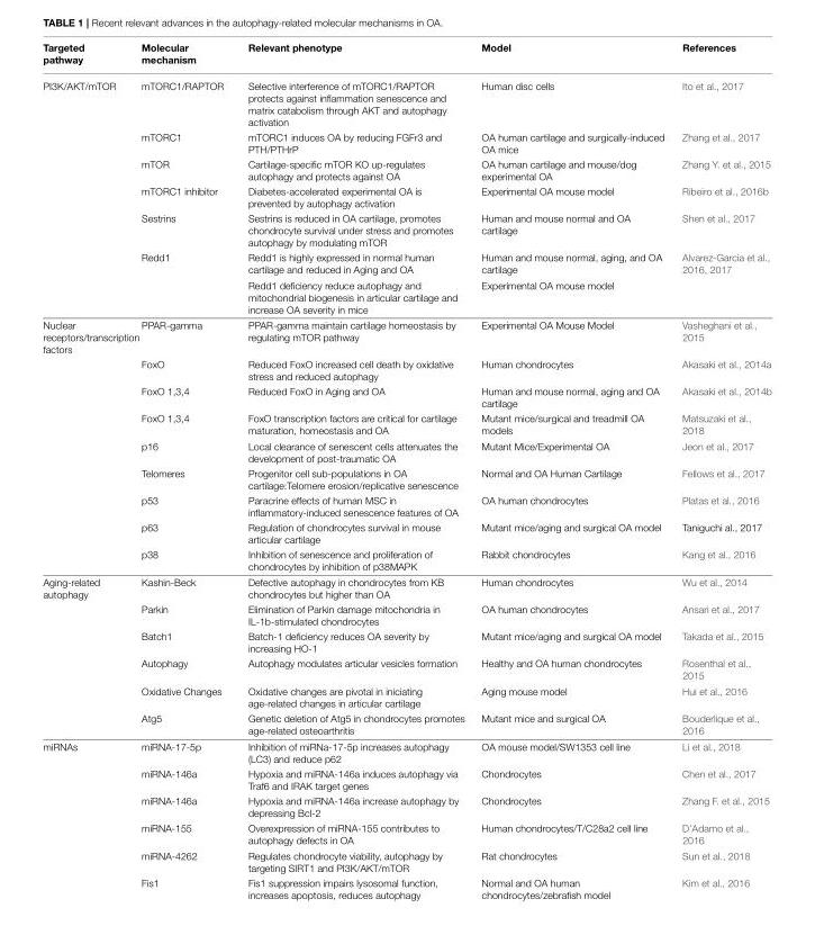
<table><thead><tr><td>Targeted pathway</td><td>Molecular mechanism</td><td>Relevant phenotype</td><td>Model</td><td>References</td></tr></thead><tbody><tr><td rowspan="7">PI3K/AKT/mTOR</td><td>mTORC1/RAPTOR</td><td>Selective interference of mTORC1/RAPTOR protects against inflammation senescence and matrix catabolism through AKT and autophagy activation</td><td>Human disc cells</td><td>Ito et al., 2017</td></tr><tr><td>mTORC1</td><td>mTORC1 induces OA by reducing FGFr3 and PTH/PTHrP</td><td>OA human cartilage and surgically-induced OA mice</td><td>Zhang et al., 2017</td></tr><tr><td>mTOR</td><td>Cartilage-specific mTOR KO up-regulates autophagy and protects against OA</td><td>OA human cartilage and mouse/dog experimental OA</td><td>Zhang Y. et al., 2015</td></tr><tr><td>mTORC1 inhibitor</td><td>Diabetes-accelerated experimental OA is prevented by autophagy activation</td><td>Experimental OA mouse model</td><td>Ribeiro et al., 2016b</td></tr><tr><td>Sestrins</td><td>Sestrins is reduced in OA cartilage, promotes chondrocyte survival under stress and promotes autophagy by modulating mTOR</td><td>Human and mouse normal and OA cartilage</td><td>Shen et al., 2017</td></tr><tr><td>Redd1</td><td>Redd1 is highly expressed in normal human cartilage and reduced in Aging and OA</td><td>Human and mouse normal, aging, and OA cartilage</td><td>Alvarez-Garcia et al., 2016, 2017</td></tr><tr><td></td><td>Redd1 deficiency reduce autophagy and mitochondrial biogenesis in articular cartilage and increase OA severity in mice</td><td>Experimental OA mouse model</td><td></td></tr><tr><td rowspan="9">Nuclear receptors/transcription factors</td><td>PPAR-gamma</td><td>PPAR-gamma maintain cartilage homeostasis by regulating mTOR pathway</td><td>Experimental OA Mouse Model</td><td>Vasheghani et al., 2015</td></tr><tr><td>FoxO</td><td>Reduced FoxO increased cell death by oxidative stress and reduced autophagy</td><td>Human chondrocytes</td><td>Akasaki et al., 2014a</td></tr><tr><td>FoxO 1,3,4</td><td>Reduced FoxO in Aging and OA</td><td>Human and mouse normal, aging and OA cartilage</td><td>Akasaki et al., 2014b</td></tr><tr><td>FoxO 1,3,4</td><td>FoxO transcription factors are critical for cartilage maturation, homeostasis and OA</td><td>Mutant mice/surgical and treadmill OA models</td><td>Matsuzaki et al., 2018</td></tr><tr><td>p16</td><td>Local clearance of senescent cells attenuates the development of post-traumatic OA</td><td>Mutant Mice/Experimental OA</td><td>Jeon et al., 2017</td></tr><tr><td>Telomeres</td><td>Progenitor cell sub-populations in OA cartilage:Telomere erosion/replicative senescence</td><td>Normal and OA Human Cartilage</td><td>Fellows et al., 2017</td></tr><tr><td>p53</td><td>Paracrine effects of human MSC in inflammatory-induced senescence features of OA</td><td>OA human chondrocytes</td><td>Platas et al., 2016</td></tr><tr><td>p63</td><td>Regulation of chondrocytes survival in mouse articular cartilage</td><td>Mutant mice/aging and surgical OA model</td><td>Taniguchi al., 2017</td></tr><tr><td>p38</td><td>Inhibition of senescence and proliferation of chondrocytes by inhibition of p38MAPK</td><td>Rabbit chondrocytes</td><td>Kang et al., 2016</td></tr><tr><td rowspan="6">Aging-related autophagy</td><td>Kashin-Beck</td><td>Defective autophagy in chondrocytes from KB chondrocytes but higher than OA</td><td>Human chondrocytes</td><td>Wu et al., 2014</td></tr><tr><td>Parkin</td><td>Elimination of Parkin damage mitochondria in IL-1b-stimulated chondrocytes</td><td>OA human chondrocytes</td><td>Ansari et al., 2017</td></tr><tr><td>Batch1</td><td>Batch-1 deficiency reduces OA severity by increasing HO-1</td><td>Mutant mice/aging and surgical OA model</td><td>Takada et al., 2015</td></tr><tr><td>Autophagy</td><td>Autophagy modulates articular vesicles formation</td><td>Healthy and OA human chondrocytes</td><td>Rosenthal et al., 2015</td></tr><tr><td>Oxidative Changes</td><td>Oxidative changes are pivotal in iniciating age-related changes in articular cartilage</td><td>Aging mouse model</td><td>Hui et al., 2016</td></tr><tr><td>Atg5</td><td>Genetic deletion of Atg5 in chondrocytes promotes age-related osteoarthritis</td><td>Mutant mice and surgical OA</td><td>Bouderlique et al., 2016</td></tr><tr><td rowspan="6">miRNAs</td><td>miRNA-17-5p</td><td>Inhibition of miRNa-17-5p increases autophagy (LC3) and reduce p62</td><td>OA mouse model/SW1353 cell line</td><td>Li et al., 2018</td></tr><tr><td>miRNA-146a</td><td>Hypoxia and miRNA-146a induces autophagy via Traf6 and IRAK target genes</td><td>Chondrocytes</td><td>Chen et al., 2017</td></tr><tr><td>miRNA-146a</td><td>Hypoxia and miRNA-146a increase autophagy by depressing Bcl-2</td><td>Chondrocytes</td><td>Zhang F. et al., 2015</td></tr><tr><td>miRNA-155</td><td>Overexpression of miRNA-155 contributes to autophagy defects in OA</td><td>Human chondrocytes/T/C28a2 cell line</td><td>D’Adamo et al., 2016</td></tr><tr><td>miRNA-4262</td><td>Regulates chondrocyte viability, autophagy by targeting SIRT1 and PI3K/AKT/mTOR</td><td>Rat chondrocytes</td><td>Sun et al., 2018</td></tr><tr><td>Fis1</td><td>Fis1 suppression impairs lysosomal function, increases apoptosis, reduces autophagy</td><td>Normal and OA human chondrocytes/zebrafish model</td><td>Kim et al., 2016</td></tr></tbody></table>